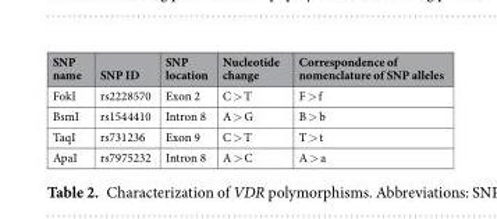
<table><thead><tr><td>SNP name</td><td>SNP ID</td><td>SNP location</td><td>Nucleotide change</td><td>Correspondence of nomenclature of SNP alleles</td></tr></thead><tbody><tr><td>FokI</td><td>rs2228570</td><td>Exon 2</td><td>C &gt; T</td><td>F &gt; f</td></tr><tr><td>BsmI</td><td>rs1544410</td><td>Intron 8</td><td>A &gt; G</td><td>B &gt; b</td></tr><tr><td>TaqI</td><td>rs731236</td><td>Exon 9</td><td>C &gt; T</td><td>T &gt; t</td></tr><tr><td>ApaI</td><td>rs7975232</td><td>Intron 8</td><td>A &gt; C</td><td>A &gt; a</td></tr></tbody></table>